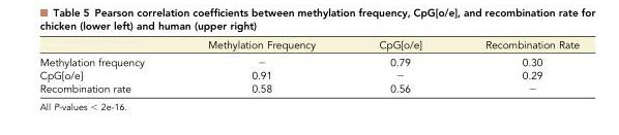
<table><thead><tr><td></td><td>Methylation Frequency</td><td>CpG[o/e]</td><td>Recombination Rate</td></tr></thead><tbody><tr><td>Methylation frequency</td><td>−</td><td>0.79</td><td>0.30</td></tr><tr><td>CpG[o/e]</td><td>0.91</td><td>−</td><td>0.29</td></tr><tr><td>Recombination rate</td><td>0.58</td><td>0.56</td><td>−</td></tr></tbody></table>